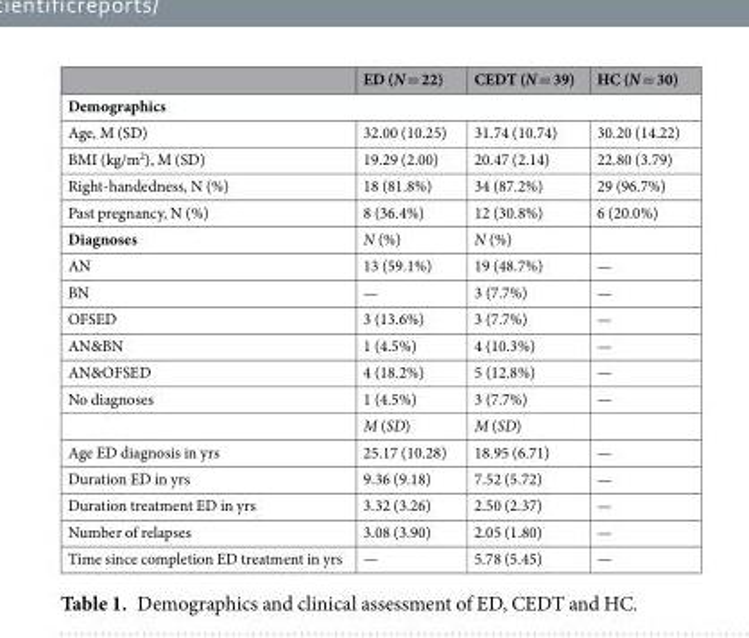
<table><thead><tr><td></td><td>ED (N = 22)</td><td>CEDT (N = 39)</td><td>HC (N = 30)</td></tr></thead><tbody><tr><td colspan="4">Demographics</td></tr><tr><td>Age, M (SD)</td><td>32.00 (10.25)</td><td>31.74 (10.74)</td><td>30.20 (14.22)</td></tr><tr><td>BMI (kg/m<sup>2</sup>), M (SD)</td><td>19.29 (2.00)</td><td>20.47 (2.14)</td><td>22.80 (3.79)</td></tr><tr><td>Right-handedness, N (%)</td><td>18 (81.8%)</td><td>34 (87.2%)</td><td>29 (96.7%)</td></tr><tr><td>Past pregnancy, N (%)</td><td>8 (36.4%)</td><td>12 (30.8%)</td><td>6 (20.0%)</td></tr><tr><td>Diagnoses</td><td>N (%)</td><td>N (%)</td><td></td></tr><tr><td>AN</td><td>13 (59.1%)</td><td>19 (48.7%)</td><td>—</td></tr><tr><td>BN</td><td>—</td><td>3 (7.7%)</td><td>—</td></tr><tr><td>OFSED</td><td>3 (13.6%)</td><td>3 (7.7%)</td><td>—</td></tr><tr><td>AN&amp;BN</td><td>1 (4.5%)</td><td>4 (10.3%)</td><td>—</td></tr><tr><td>AN&amp;OFSED</td><td>4 (18.2%)</td><td>5 (12.8%)</td><td>—</td></tr><tr><td rowspan="2">No diagnoses</td><td>1 (4.5%)</td><td>3 (7.7%)</td><td>—</td></tr><tr><td>M (SD)</td><td>M (SD)</td><td></td></tr><tr><td>Age ED diagnosis in yrs</td><td>25.17 (10.28)</td><td>18.95 (6.71)</td><td>—</td></tr><tr><td>Duration ED in yrs</td><td>9.36 (9.18)</td><td>7.52 (5.72)</td><td>—</td></tr><tr><td>Duration treatment ED in yrs</td><td>3.32 (3.26)</td><td>2.50 (2.37)</td><td>—</td></tr><tr><td>Number of relapses</td><td>3.08 (3.90)</td><td>2.05 (1.80)</td><td>—</td></tr><tr><td>Time since completion ED treatment in yrs</td><td>—</td><td>5.78 (5.45)</td><td>—</td></tr></tbody></table>